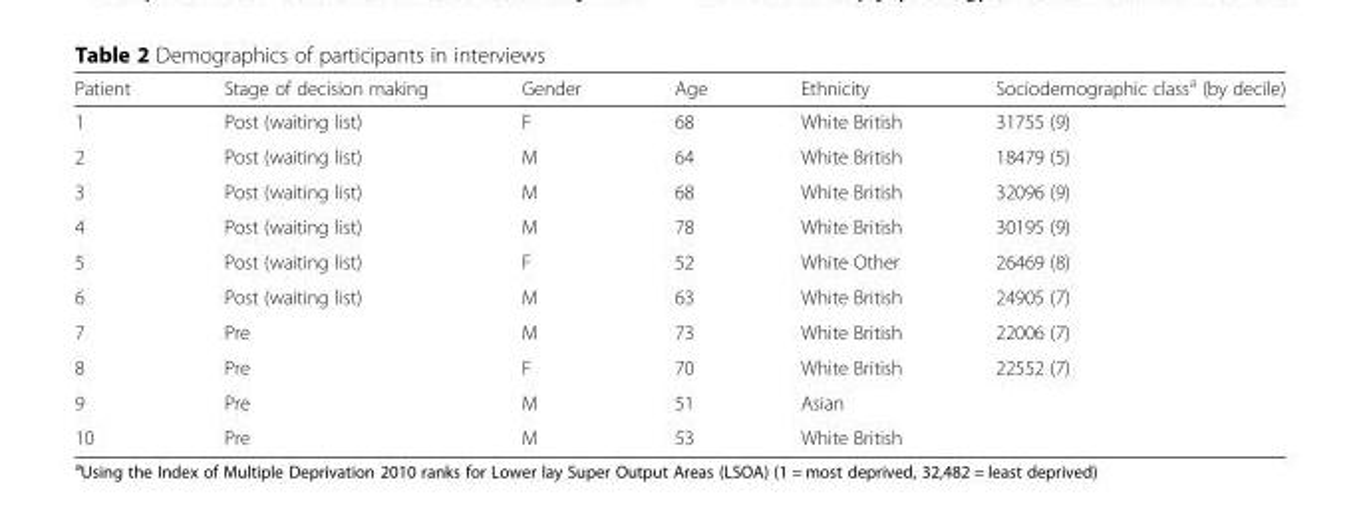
<table><thead><tr><td>Patient</td><td>Stage of decision making</td><td>Gender</td><td>Age</td><td>Ethnicity</td><td>Sociodemographic class<sup>a</sup> (by decile)</td></tr></thead><tbody><tr><td>1</td><td>Post (waiting list)</td><td>F</td><td>68</td><td>White British</td><td>31755 (9)</td></tr><tr><td>2</td><td>Post (waiting list)</td><td>M</td><td>64</td><td>White British</td><td>18479 (5)</td></tr><tr><td>3</td><td>Post (waiting list)</td><td>M</td><td>68</td><td>White British</td><td>32096 (9)</td></tr><tr><td>4</td><td>Post (waiting list)</td><td>M</td><td>78</td><td>White British</td><td>30195 (9)</td></tr><tr><td>5</td><td>Post (waiting list)</td><td>F</td><td>52</td><td>White Other</td><td>26469 (8)</td></tr><tr><td>6</td><td>Post (waiting list)</td><td>M</td><td>63</td><td>White British</td><td>24905 (7)</td></tr><tr><td>7</td><td>Pre</td><td>M</td><td>73</td><td>White British</td><td>22006 (7)</td></tr><tr><td>8</td><td>Pre</td><td>F</td><td>70</td><td>White British</td><td>22552 (7)</td></tr><tr><td>9</td><td>Pre</td><td>M</td><td>51</td><td>Asian</td><td></td></tr><tr><td>10</td><td>Pre</td><td>M</td><td>53</td><td>White British</td><td></td></tr></tbody></table>